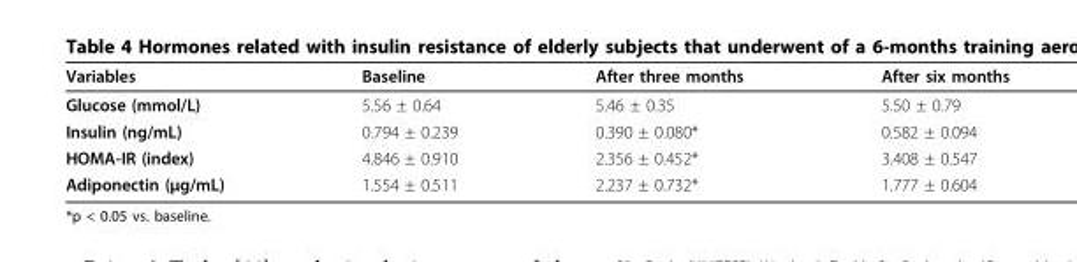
<table><thead><tr><td>Variables</td><td>Baseline</td><td>After three months</td><td>After six months</td></tr></thead><tbody><tr><td>Glucose (mmol/L)</td><td>5.56 ± 0.64</td><td>5.46 ± 0.35</td><td>5.50 ± 0.79</td></tr><tr><td>Insulin (ng/mL)</td><td>0.794 ± 0.239</td><td>0.390 ± 0.080*</td><td>0.582 ± 0.094</td></tr><tr><td>HOMA-IR (index)</td><td>4.846 ± 0.910</td><td>2.356 ± 0.452*</td><td>3.408 ± 0.547</td></tr><tr><td>Adiponectin (μg/mL)</td><td>1.554 ± 0.511</td><td>2.237 ± 0.732*</td><td>1.777 ± 0.604</td></tr></tbody></table>